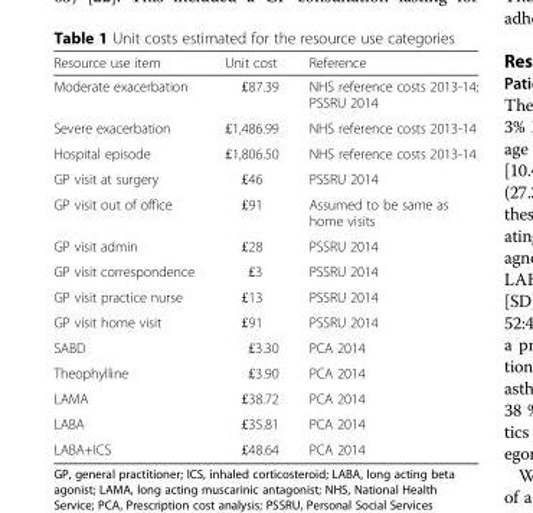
<table><thead><tr><td>Resource use item</td><td>Unit cost</td><td>Reference</td></tr></thead><tbody><tr><td>Moderate exacerbation</td><td>£87.39</td><td>NHS reference costs 2013-14; PSSRU 2014</td></tr><tr><td>Severe exacerbation</td><td>£1,486.99</td><td>NHS reference costs 2013-14</td></tr><tr><td>Hospital episode</td><td>£1,806.50</td><td>NHS reference costs 2013-14</td></tr><tr><td>GP visit at surgery</td><td>£46</td><td>PSSRU 2014</td></tr><tr><td>GP visit out of office</td><td>£91</td><td>Assumed to be same as home visits</td></tr><tr><td>GP visit admin</td><td>£28</td><td>PSSRU 2014</td></tr><tr><td>GP visit correspondence</td><td>£3</td><td>PSSRU 2014</td></tr><tr><td>GP visit practice nurse</td><td>£13</td><td>PSSRU 2014</td></tr><tr><td>GP visit home visit</td><td>£91</td><td>PSSRU 2014</td></tr><tr><td>SABD</td><td>£3.30</td><td>PCA 2014</td></tr><tr><td>Theophylline</td><td>£3.90</td><td>PCA 2014</td></tr><tr><td>LAMA</td><td>£38.72</td><td>PCA 2014</td></tr><tr><td>LABA</td><td>£35.81</td><td>PCA 2014</td></tr><tr><td>LABA+ICS</td><td>£48.64</td><td>PCA 2014</td></tr></tbody></table>